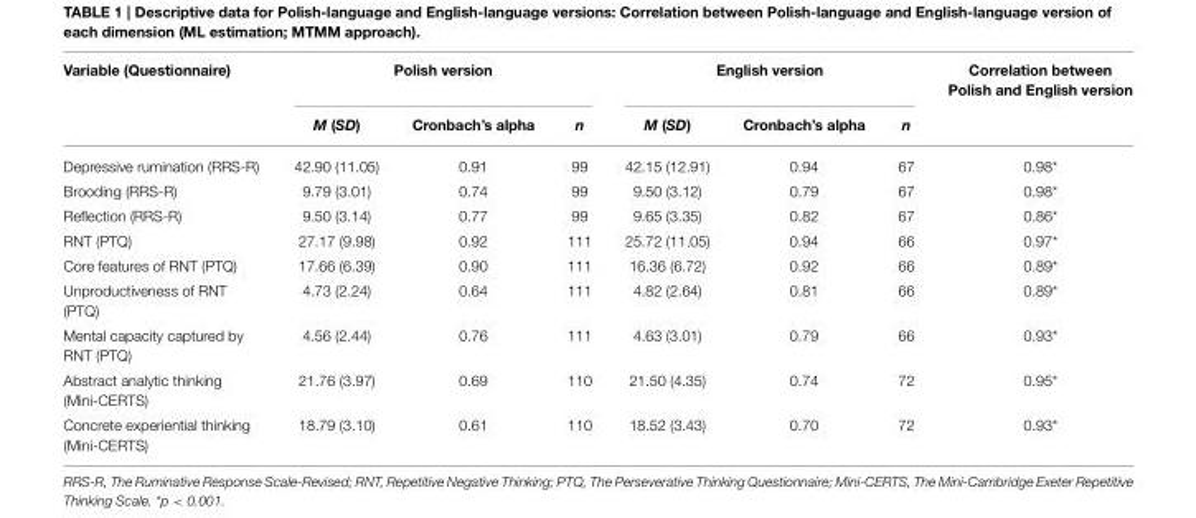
<table><thead><tr><td rowspan="2">Variable (Questionnaire)</td><td colspan="3">Polish version</td><td colspan="3">English version</td><td rowspan="2">Correlation between Polish and English version</td></tr><tr><td>M (SD)</td><td>Cronbach’s alpha</td><td>n</td><td>M (SD)</td><td>Cronbach’s alpha</td><td>n</td></tr></thead><tbody><tr><td>Depressive rumination (RRS-R)</td><td>42.90 (11.05)</td><td>0.91</td><td>99</td><td>42.15 (12.91)</td><td>0.94</td><td>67</td><td>0.98*</td></tr><tr><td>Brooding (RRS-R)</td><td>9.79 (3.01)</td><td>0.74</td><td>99</td><td>9.50 (3.12)</td><td>0.79</td><td>67</td><td>0.98*</td></tr><tr><td>Reflection (RRS-R)</td><td>9.50 (3.14)</td><td>0.77</td><td>99</td><td>9.65 (3.35)</td><td>0.82</td><td>67</td><td>0.86*</td></tr><tr><td>RNT (PTQ)</td><td>27.17 (9.98)</td><td>0.92</td><td>111</td><td>25.72 (11.05)</td><td>0.94</td><td>66</td><td>0.97*</td></tr><tr><td>Core features of RNT (PTQ)</td><td>17.66 (6.39)</td><td>0.90</td><td>111</td><td>16.36 (6.72)</td><td>0.92</td><td>66</td><td>0.89*</td></tr><tr><td>Unproductiveness of RNT (PTQ)</td><td>4.73 (2.24)</td><td>0.64</td><td>111</td><td>4.82 (2.64)</td><td>0.81</td><td>66</td><td>0.89*</td></tr><tr><td>Mental capacity captured by RNT (PTQ)</td><td>4.56 (2.44)</td><td>0.76</td><td>111</td><td>4.63 (3.01)</td><td>0.79</td><td>66</td><td>0.93*</td></tr><tr><td>Abstract analytic thinking (Mini-CERTS)</td><td>21.76 (3.97)</td><td>0.69</td><td>110</td><td>21.50 (4.35)</td><td>0.74</td><td>72</td><td>0.95*</td></tr><tr><td>Concrete experiential thinking (Mini-CERTS)</td><td>18.79 (3.10)</td><td>0.61</td><td>110</td><td>18.52 (3.43)</td><td>0.70</td><td>72</td><td>0.93*</td></tr></tbody></table>